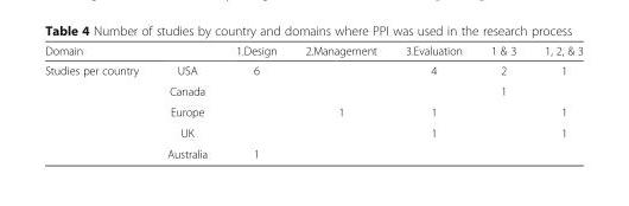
<table><thead><tr><td>Domain</td><td></td><td>1.Design</td><td>2.Management</td><td>3.Evaluation</td><td>1 &amp; 3</td><td>1, 2, &amp; 3</td></tr></thead><tbody><tr><td rowspan="5">Studies per country</td><td>USA</td><td>6</td><td></td><td>4</td><td>2</td><td>1</td></tr><tr><td>Canada</td><td></td><td></td><td></td><td>1</td><td></td></tr><tr><td>Europe</td><td></td><td>1</td><td>1</td><td></td><td>1</td></tr><tr><td>UK</td><td></td><td></td><td>1</td><td></td><td>1</td></tr><tr><td>Australia</td><td>1</td><td></td><td></td><td></td><td></td></tr></tbody></table>